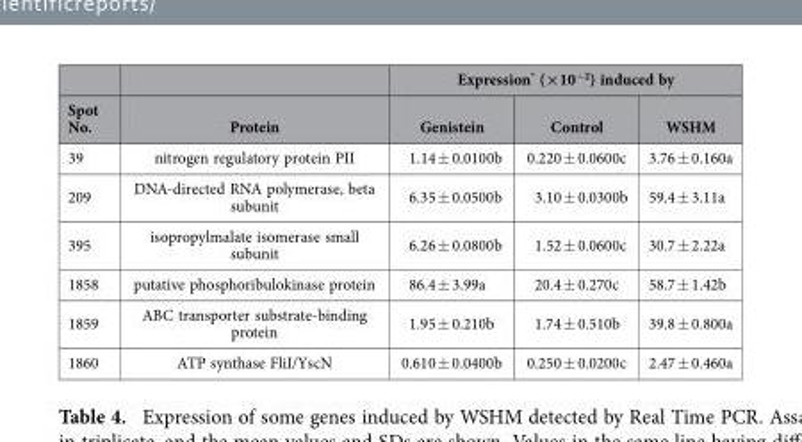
<table><thead><tr><td rowspan="2">Spot No.</td><td rowspan="2">Protein</td><td colspan="3">Expression* (×10<sup>−2</sup>) induced by</td></tr><tr><td>Genistein</td><td>Control</td><td>WSHM</td></tr></thead><tbody><tr><td>39</td><td>nitrogen regulatory protein PII</td><td>1.14 ± 0.0100b</td><td>0.220 ± 0.0600c</td><td>3.76 ± 0.160a</td></tr><tr><td>209</td><td>DNA-directed RNA polymerase, beta subunit</td><td>6.35 ± 0.0500b</td><td>3.10 ± 0.0300b</td><td>59.4 ± 3.11a</td></tr><tr><td>395</td><td>isopropylmalate isomerase small subunit</td><td>6.26 ± 0.0800b</td><td>1.52 ± 0.0600c</td><td>30.7 ± 2.22a</td></tr><tr><td>1858</td><td>putative phosphoribulokinase protein</td><td>86.4 ± 3.99a</td><td>20.4 ± 0.270c</td><td>58.7 ± 1.42b</td></tr><tr><td>1859</td><td>ABC transporter substrate-binding protein</td><td>1.95 ± 0.210b</td><td>1.74 ± 0.510b</td><td>39.8 ± 0.800a</td></tr><tr><td>1860</td><td>ATP synthase FliI/YscN</td><td>0.610 ± 0.0400b</td><td>0.250 ± 0.0200c</td><td>2.47 ± 0.460a</td></tr></tbody></table>